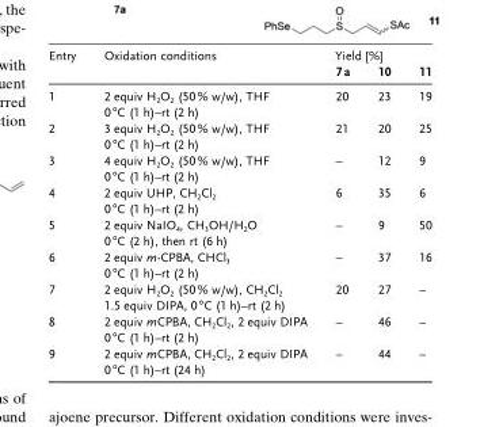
<table><thead><tr><td rowspan="2">Entry</td><td rowspan="2">Oxidation conditions</td><td colspan="3">Yield [%]</td></tr><tr><td>7a</td><td>10</td><td>11</td></tr></thead><tbody><tr><td>1</td><td>2 equiv H<sub>2</sub>O<sub>2</sub> (50% w/w), THF 0°C (1 h)–rt (2 h)</td><td>20</td><td>23</td><td>19</td></tr><tr><td>2</td><td>3 equiv H<sub>2</sub>O<sub>2</sub> (50% w/w), THF 0°C (1 h)–rt (2 h)</td><td>21</td><td>20</td><td>25</td></tr><tr><td>3</td><td>4 equiv H<sub>2</sub>O<sub>2</sub> (50% w/w), THF 0°C (1 h)–rt (2 h)</td><td>–</td><td>12</td><td>9</td></tr><tr><td>4</td><td>2 equiv UHP, CH<sub>2</sub>Cl<sub>2</sub> 0°C (1 h)–rt (2 h)</td><td>6</td><td>35</td><td>6</td></tr><tr><td>5</td><td>2 equiv NaIO<sub>4</sub>, CH<sub>3</sub>OH/H<sub>2</sub>O 0°C (2 h), then rt (6 h)</td><td>–</td><td>9</td><td>50</td></tr><tr><td>6</td><td>2 equiv m-CPBA, CHCl<sub>3</sub> 0°C (1 h)–rt (2 h)</td><td>–</td><td>37</td><td>16</td></tr><tr><td>7</td><td>2 equiv H<sub>2</sub>O<sub>2</sub> (50% w/w), CH<sub>2</sub>Cl<sub>2</sub> 1.5 equiv DIPA, 0°C (1 h)–rt (2 h)</td><td>20</td><td>27</td><td>–</td></tr><tr><td>8</td><td>2 equiv mCPBA, CH<sub>2</sub>Cl<sub>2</sub>, 2 equiv DIPA 0°C (1 h)–rt (2 h)</td><td>–</td><td>46</td><td>–</td></tr><tr><td>9</td><td>2 equiv mCPBA, CH<sub>2</sub>Cl<sub>2</sub>, 2 equiv DIPA 0°C (1 h)–rt (24 h)</td><td>–</td><td>44</td><td>–</td></tr></tbody></table>